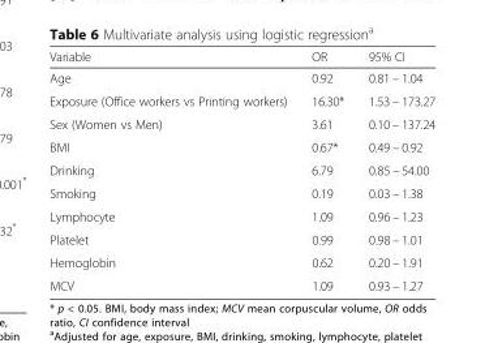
<table><thead><tr><td>Variable</td><td>OR</td><td>95% CI</td></tr></thead><tbody><tr><td>Age</td><td>0.92</td><td>0.81 – 1.04</td></tr><tr><td>Exposure (Office workers vs Printing workers)</td><td>16.30*</td><td>1.53 – 173.27</td></tr><tr><td>Sex (Women vs Men)</td><td>3.61</td><td>0.10 – 137.24</td></tr><tr><td>BMI</td><td>0.67*</td><td>0.49 – 0.92</td></tr><tr><td>Drinking</td><td>6.79</td><td>0.85 – 54.00</td></tr><tr><td>Smoking</td><td>0.19</td><td>0.03 – 1.38</td></tr><tr><td>Lymphocyte</td><td>1.09</td><td>0.96 – 1.23</td></tr><tr><td>Platelet</td><td>0.99</td><td>0.98 – 1.01</td></tr><tr><td>Hemoglobin</td><td>0.62</td><td>0.20 – 1.91</td></tr><tr><td>MCV</td><td>1.09</td><td>0.93 – 1.27</td></tr></tbody></table>